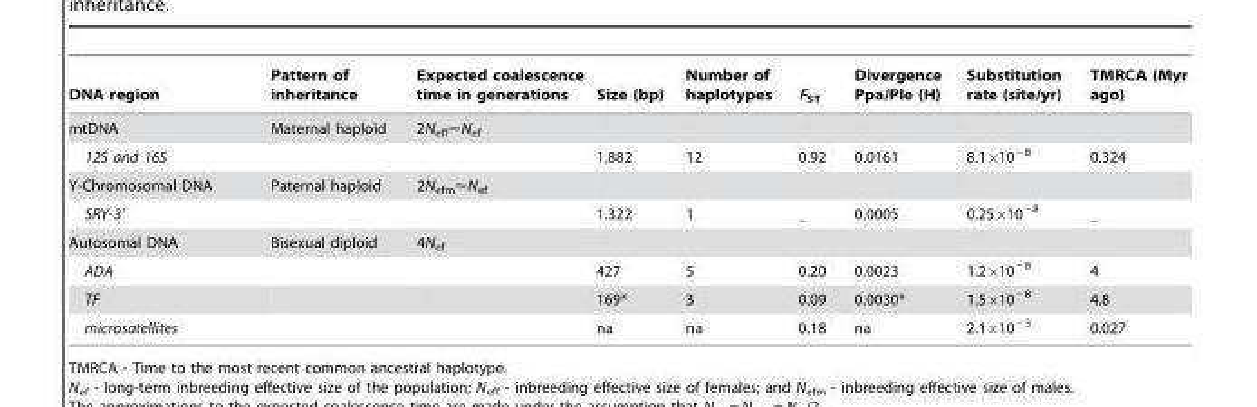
<table><thead><tr><td>DNA region</td><td>Pattern of inheritance</td><td>Expected coalescence time in generations</td><td>Size (bp)</td><td>Number of haplotypes</td><td>F<sub>ST</sub></td><td>Divergence Ppa/Ple (H)</td><td>Substitution rate (site/yr)</td><td>TMRCA (Myr ago)</td></tr></thead><tbody><tr><td>mtDNA</td><td>Maternal haploid</td><td>2Neff&lt;Nef</td><td></td><td></td><td></td><td></td><td></td><td></td></tr><tr><td>12S and 16S</td><td></td><td></td><td>1.882</td><td>12</td><td>0.92</td><td>0.0161</td><td>8.1×10<sup>−8</sup></td><td>0.324</td></tr><tr><td>Y-Chromosomal DNA</td><td>Paternal haploid</td><td>2Nefm&lt;Nef</td><td></td><td></td><td></td><td></td><td></td><td></td></tr><tr><td>SRY-3′</td><td></td><td></td><td>1.322</td><td>1</td><td>_</td><td>0.0005</td><td>0.25×10<sup>−8</sup></td><td>_</td></tr><tr><td>Autosomal DNA</td><td>Bisexual diploid</td><td>4N<sub>ef</sub></td><td></td><td></td><td></td><td></td><td></td><td></td></tr><tr><td>ADA</td><td></td><td></td><td>427</td><td>5</td><td>0.20</td><td>0.0023</td><td>1.2×10<sup>−8</sup></td><td>4</td></tr><tr><td>TF</td><td></td><td></td><td>169*</td><td>3</td><td>0.09</td><td>0.0030*</td><td>1.5×10<sup>−8</sup></td><td>4.8</td></tr><tr><td>microsatellites</td><td></td><td></td><td>na</td><td>na</td><td>0.18</td><td>na</td><td>2.1×10<sup>−3</sup></td><td>0.027</td></tr></tbody></table>